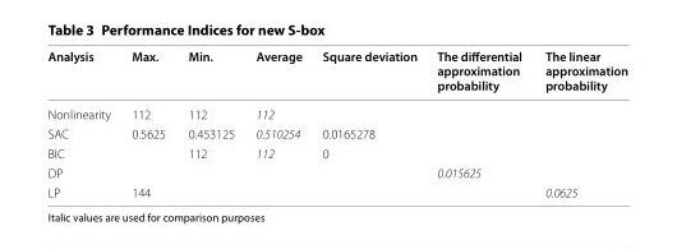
<table><thead><tr><td>Analysis</td><td>Max.</td><td>Min.</td><td>Average</td><td>Square deviation</td><td>The differential approximation probability</td><td>The linear approximation probability</td></tr></thead><tbody><tr><td>Nonlinearity</td><td>112</td><td>112</td><td>112</td><td></td><td></td><td></td></tr><tr><td>SAC</td><td>0.5625</td><td>0.453125</td><td>0.510254</td><td>0.0165278</td><td></td><td></td></tr><tr><td>BIC</td><td></td><td>112</td><td>112</td><td>0</td><td></td><td></td></tr><tr><td>DP</td><td></td><td></td><td></td><td></td><td>0.015625</td><td></td></tr><tr><td>LP</td><td>144</td><td></td><td></td><td></td><td></td><td>0.0625</td></tr></tbody></table>